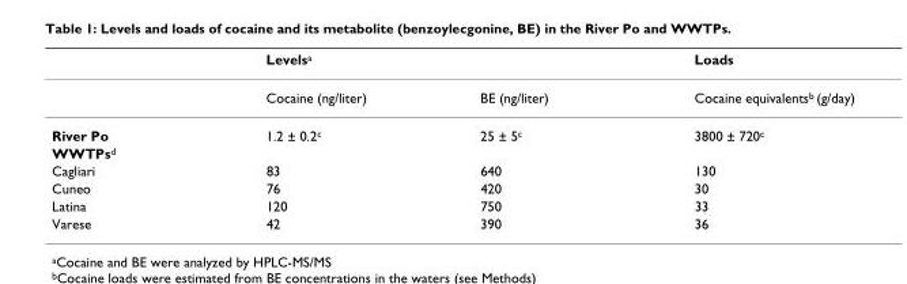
<table><thead><tr><td rowspan="2"></td><td colspan="2">Levelsa</td><td rowspan="2">Loads Cocaine equivalentsb (g/day)</td></tr><tr><td>Cocaine (ng/liter)</td><td>BE (ng/liter)</td></tr></thead><tbody><tr><td>River Po</td><td>1.2 ± 0.2<sup>c</sup></td><td>25 ± 5<sup>c</sup></td><td>3800 ± 720<sup>c</sup></td></tr><tr><td colspan="4">WWTPs<sup>d</sup></td></tr><tr><td>Cagliari</td><td>83</td><td>640</td><td>130</td></tr><tr><td>Cuneo</td><td>76</td><td>420</td><td>30</td></tr><tr><td>Latina</td><td>120</td><td>750</td><td>33</td></tr><tr><td>Varese</td><td>42</td><td>390</td><td>36</td></tr></tbody></table>